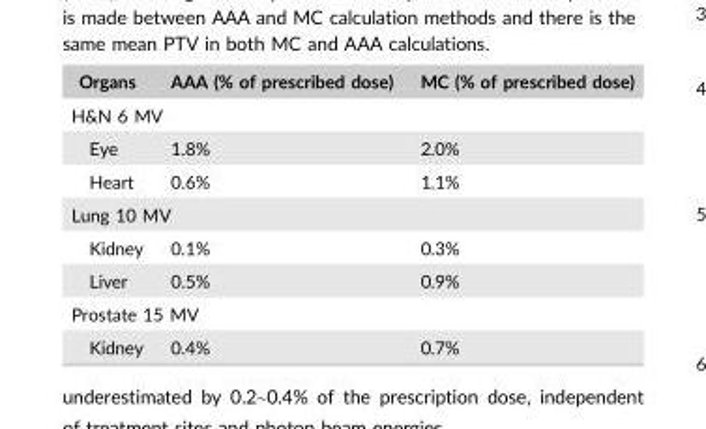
<table><thead><tr><td>Organs</td><td>AAA (% of prescribed dose)</td><td>MC (% of prescribed dose)</td></tr></thead><tbody><tr><td colspan="3">H&amp;N 6 MV</td></tr><tr><td>Eye</td><td>1.8%</td><td>2.0%</td></tr><tr><td>Heart</td><td>0.6%</td><td>1.1%</td></tr><tr><td colspan="3">Lung 10 MV</td></tr><tr><td>Kidney</td><td>0.1%</td><td>0.3%</td></tr><tr><td>Liver</td><td>0.5%</td><td>0.9%</td></tr><tr><td colspan="3">Prostate 15 MV</td></tr><tr><td>Kidney</td><td>0.4%</td><td>0.7%</td></tr></tbody></table>